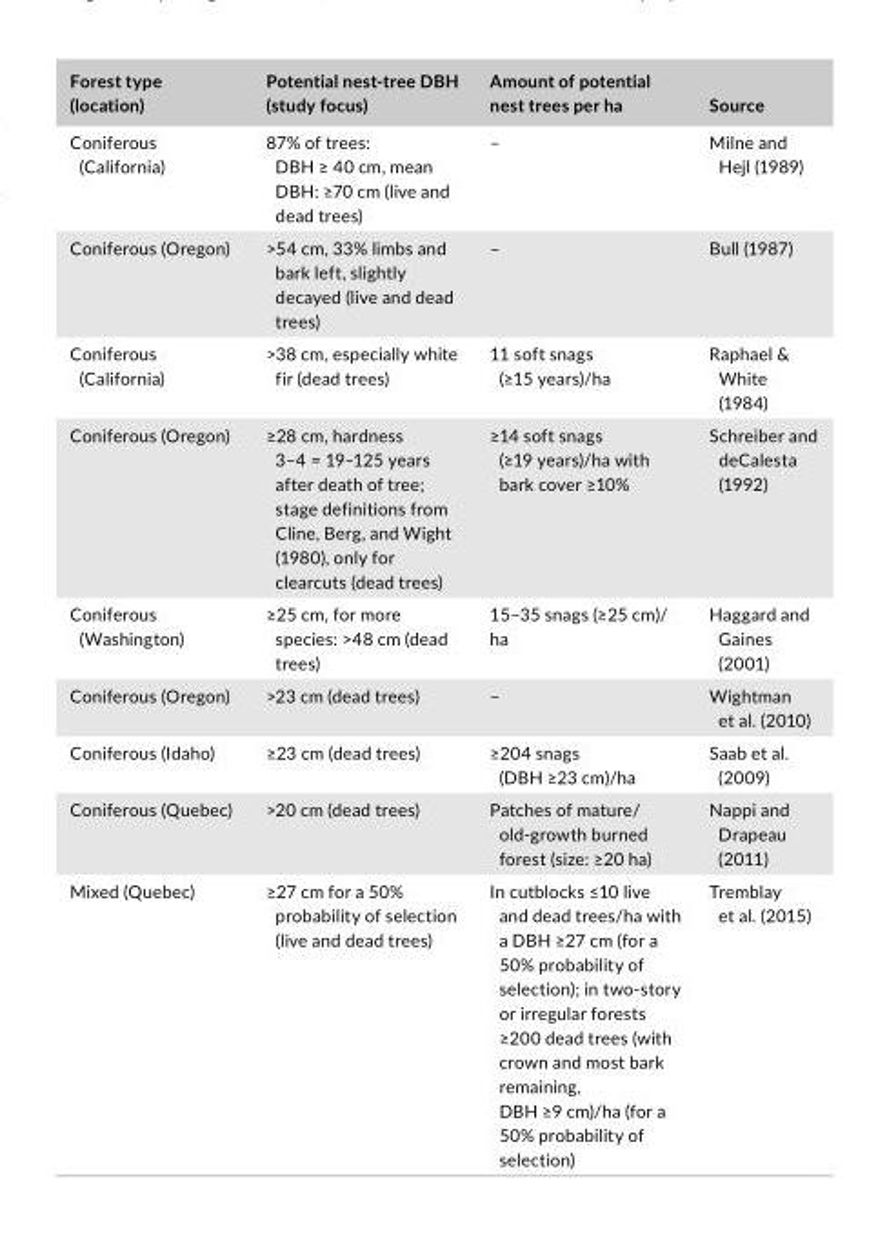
<table><thead><tr><td>Forest type (location)</td><td>Potential nest- tree DBH (study focus)</td><td>Amount of potential nest trees per ha</td><td>Source</td></tr></thead><tbody><tr><td>Coniferous (California)</td><td>87% of trees: DBH ≥ 40 cm, mean DBH: ≥70 cm (live and dead trees)</td><td>–</td><td>Milne and Hejl (1989)</td></tr><tr><td>Coniferous (Oregon)</td><td>&gt;54 cm, 33% limbs and bark left, slightly decayed (live and dead trees)</td><td>–</td><td>Bull (1987)</td></tr><tr><td>Coniferous (California)</td><td>&gt;38 cm, especially white fir (dead trees)</td><td>11 soft snags (≥15 years)/ha</td><td>Raphael &amp; White (1984)</td></tr><tr><td>Coniferous (Oregon)</td><td>≥28 cm, hardness 3–4 = 19–125 years after death of tree; stage definitions from Cline, Berg, and Wight (1980), only for clearcuts (dead trees)</td><td>≥14 soft snags (≥19 years)/ha with bark cover ≥10%</td><td>Schreiber and deCalesta (1992)</td></tr><tr><td>Coniferous (Washington)</td><td>≥25 cm, for more species: &gt;48 cm (dead trees)</td><td>15–35 snags (≥25 cm)/ ha</td><td>Haggard and Gaines (2001)</td></tr><tr><td>Coniferous (Oregon)</td><td>&gt;23 cm (dead trees)</td><td>–</td><td>Wightman et al. (2010)</td></tr><tr><td>Coniferous (Idaho)</td><td>≥23 cm (dead trees)</td><td>≥204 snags (DBH ≥23 cm)/ha</td><td>Saab et al. (2009)</td></tr><tr><td>Coniferous (Quebec)</td><td>&gt;20 cm (dead trees)</td><td>Patches of mature/ old- growth burned forest (size: ≥20 ha)</td><td>Nappi and Drapeau (2011)</td></tr><tr><td>Mixed (Quebec)</td><td>≥27 cm for a 50% probability of selection (live and dead trees)</td><td>In cutblocks ≤10 live and dead trees/ha with a DBH ≥27 cm (for a 50% probability of selection); in two- story or irregular forests ≥200 dead trees (with crown and most bark remaining, DBH ≥9 cm)/ha (for a 50% probability of selection)</td><td>Tremblay et al. (2015)</td></tr></tbody></table>